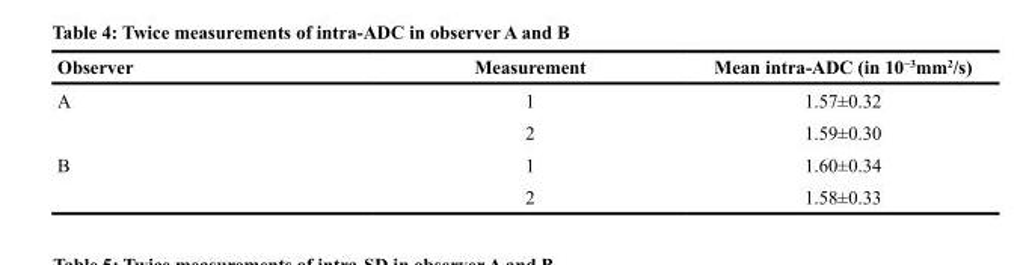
<table><thead><tr><td>Observer</td><td>Measurement</td><td>Mean intra-ADC (in 10<sup>−3</sup>mm<sup>2</sup>/s)</td></tr></thead><tbody><tr><td rowspan="2">A</td><td>1</td><td>1.57±0.32</td></tr><tr><td>2</td><td>1.59±0.30</td></tr><tr><td rowspan="2">B</td><td>1</td><td>1.60±0.34</td></tr><tr><td>2</td><td>1.58±0.33</td></tr></tbody></table>